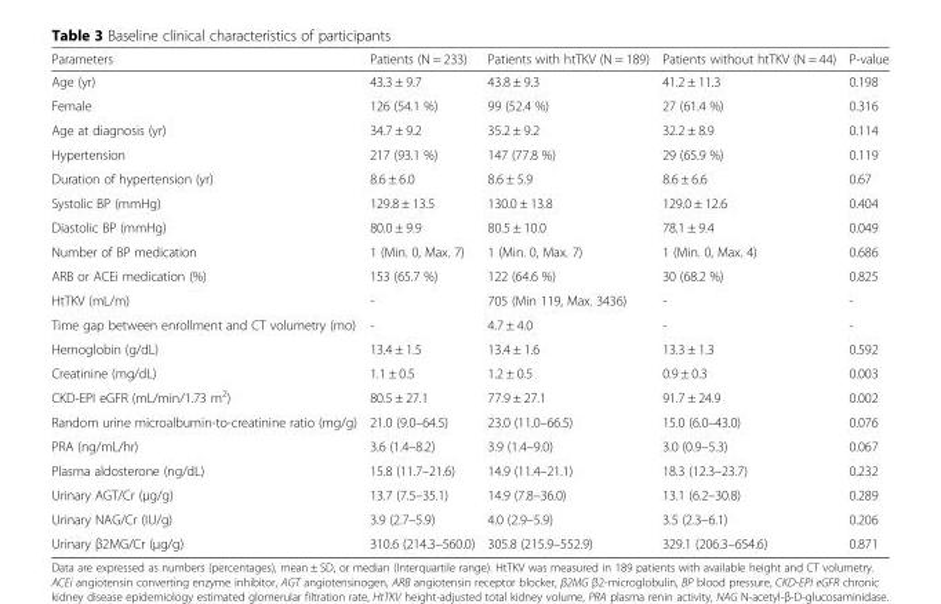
<table><thead><tr><td>Parameters</td><td>Patients (N = 233)</td><td>Patients with htTKV (N = 189)</td><td>Patients without htTKV (N = 44)</td><td>P-value</td></tr></thead><tbody><tr><td>Age (yr)</td><td>43.3 ± 9.7</td><td>43.8 ± 9.3</td><td>41.2 ± 11.3</td><td>0.198</td></tr><tr><td>Female</td><td>126 (54.1 %)</td><td>99 (52.4 %)</td><td>27 (61.4 %)</td><td>0.316</td></tr><tr><td>Age at diagnosis (yr)</td><td>34.7 ± 9.2</td><td>35.2 ± 9.2</td><td>32.2 ± 8.9</td><td>0.114</td></tr><tr><td>Hypertension</td><td>217 (93.1 %)</td><td>147 (77.8 %)</td><td>29 (65.9 %)</td><td>0.119</td></tr><tr><td>Duration of hypertension (yr)</td><td>8.6 ± 6.0</td><td>8.6 ± 5.9</td><td>8.6 ± 6.6</td><td>0.67</td></tr><tr><td>Systolic BP (mmHg)</td><td>129.8 ± 13.5</td><td>130.0 ± 13.8</td><td>129.0 ± 12.6</td><td>0.404</td></tr><tr><td>Diastolic BP (mmHg)</td><td>80.0 ± 9.9</td><td>80.5 ± 10.0</td><td>78.1 ± 9.4</td><td>0.049</td></tr><tr><td>Number of BP medication</td><td>1 (Min. 0, Max. 7)</td><td>1 (Min. 0, Max. 7)</td><td>1 (Min. 0, Max. 4)</td><td>0.686</td></tr><tr><td>ARB or ACEi medication (%)</td><td>153 (65.7 %)</td><td>122 (64.6 %)</td><td>30 (68.2 %)</td><td>0.825</td></tr><tr><td>HtTKV (mL/m)</td><td>-</td><td>705 (Min 119, Max. 3436)</td><td>-</td><td>-</td></tr><tr><td>Time gap between enrollment and CT volumetry (mo)</td><td>-</td><td>4.7 ± 4.0</td><td>-</td><td>-</td></tr><tr><td>Hemoglobin (g/dL)</td><td>13.4 ± 1.5</td><td>13.4 ± 1.6</td><td>13.3 ± 1.3</td><td>0.592</td></tr><tr><td>Creatinine (mg/dL)</td><td>1.1 ± 0.5</td><td>1.2 ± 0.5</td><td>0.9 ± 0.3</td><td>0.003</td></tr><tr><td>CKD-EPI eGFR (mL/min/1.73 m<sup>2</sup>)</td><td>80.5 ± 27.1</td><td>77.9 ± 27.1</td><td>91.7 ± 24.9</td><td>0.002</td></tr><tr><td>Random urine microalbumin-to-creatinine ratio (mg/g)</td><td>21.0 (9.0–64.5)</td><td>23.0 (11.0–66.5)</td><td>15.0 (6.0–43.0)</td><td>0.076</td></tr><tr><td>PRA (ng/mL/hr)</td><td>3.6 (1.4–8.2)</td><td>3.9 (1.4–9.0)</td><td>3.0 (0.9–5.3)</td><td>0.067</td></tr><tr><td>Plasma aldosterone (ng/dL)</td><td>15.8 (11.7–21.6)</td><td>14.9 (11.4–21.1)</td><td>18.3 (12.3–23.7)</td><td>0.232</td></tr><tr><td>Urinary AGT/Cr (μg/g)</td><td>13.7 (7.5–35.1)</td><td>14.9 (7.8–36.0)</td><td>13.1 (6.2–30.8)</td><td>0.289</td></tr><tr><td>Urinary NAG/Cr (IU/g)</td><td>3.9 (2.7–5.9)</td><td>4.0 (2.9–5.9)</td><td>3.5 (2.3–6.1)</td><td>0.206</td></tr><tr><td>Urinary β2MG/Cr (μg/g)</td><td>310.6 (214.3–560.0)</td><td>305.8 (215.9–552.9)</td><td>329.1 (206.3–654.6)</td><td>0.871</td></tr></tbody></table>